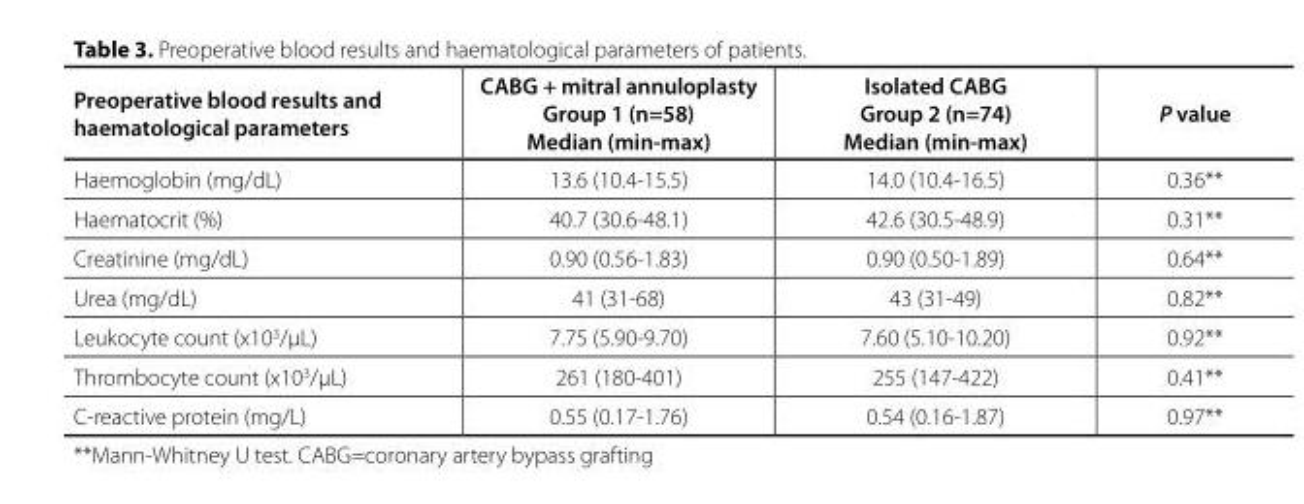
<table><thead><tr><td>Preoperative blood results and haematological parameters</td><td>CABG + mitral annuloplasty Group 1 (n=58) Median (min-max)</td><td>Isolated CABG Group 2 (n=74) Median (min-max)</td><td>P value</td></tr></thead><tbody><tr><td>Haemoglobin (mg/dL)</td><td>13.6 (10.4-15.5)</td><td>14.0 (10.4-16.5)</td><td>0.36**</td></tr><tr><td>Haematocrit (%)</td><td>40.7 (30.6-48.1)</td><td>42.6 (30.5-48.9)</td><td>0.31**</td></tr><tr><td>Creatinine (mg/dL)</td><td>0.90 (0.56-1.83)</td><td>0.90 (0.50-1.89)</td><td>0.64**</td></tr><tr><td>Urea (mg/dL)</td><td>41 (31-68)</td><td>43 (31-49)</td><td>0.82**</td></tr><tr><td>Leukocyte count (x103/µL)</td><td>7.75 (5.90-9.70)</td><td>7.60 (5.10-10.20)</td><td>0.92**</td></tr><tr><td>Thrombocyte count (x103/µL)</td><td>261 (180-401)</td><td>255 (147-422)</td><td>0.41**</td></tr><tr><td>C-reactive protein (mg/L)</td><td>0.55 (0.17-1.76)</td><td>0.54 (0.16-1.87)</td><td>0.97**</td></tr></tbody></table>